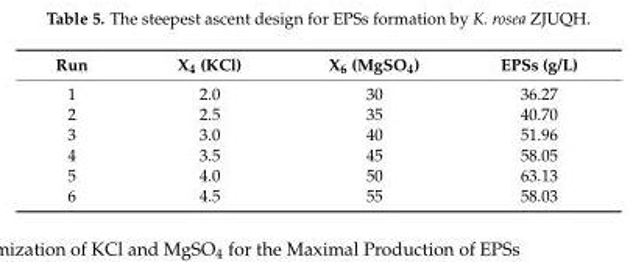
<table><thead><tr><td>Run</td><td>X<sub>4</sub> (KCl)</td><td>X<sub>6</sub> (MgSO<sub>4</sub>)</td><td>EPSs (g/L)</td></tr></thead><tbody><tr><td>1</td><td>2.0</td><td>30</td><td>36.27</td></tr><tr><td>2</td><td>2.5</td><td>35</td><td>40.70</td></tr><tr><td>3</td><td>3.0</td><td>40</td><td>51.96</td></tr><tr><td>4</td><td>3.5</td><td>45</td><td>58.05</td></tr><tr><td>5</td><td>4.0</td><td>50</td><td>63.13</td></tr><tr><td>6</td><td>4.5</td><td>55</td><td>58.03</td></tr></tbody></table>